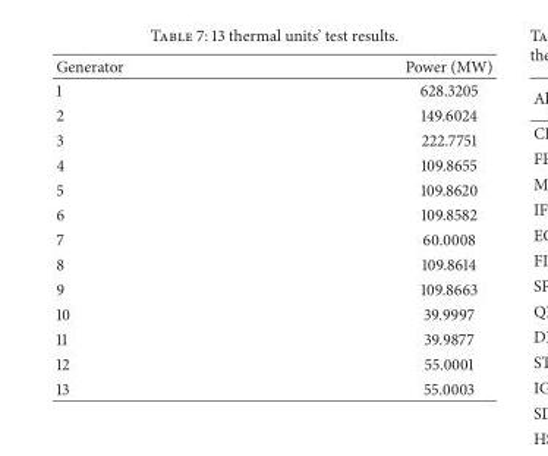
<table><thead><tr><td>Generator</td><td>Power (MW)</td></tr></thead><tbody><tr><td>1</td><td>628.3205</td></tr><tr><td>2</td><td>149.6024</td></tr><tr><td>3</td><td>222.7751</td></tr><tr><td>4</td><td>109.8655</td></tr><tr><td>5</td><td>109.8620</td></tr><tr><td>6</td><td>109.8582</td></tr><tr><td>7</td><td>60.0008</td></tr><tr><td>8</td><td>109.8614</td></tr><tr><td>9</td><td>109.8663</td></tr><tr><td>10</td><td>39.9997</td></tr><tr><td>11</td><td>39.9877</td></tr><tr><td>12</td><td>55.0001</td></tr><tr><td>13</td><td>55.0003</td></tr></tbody></table>